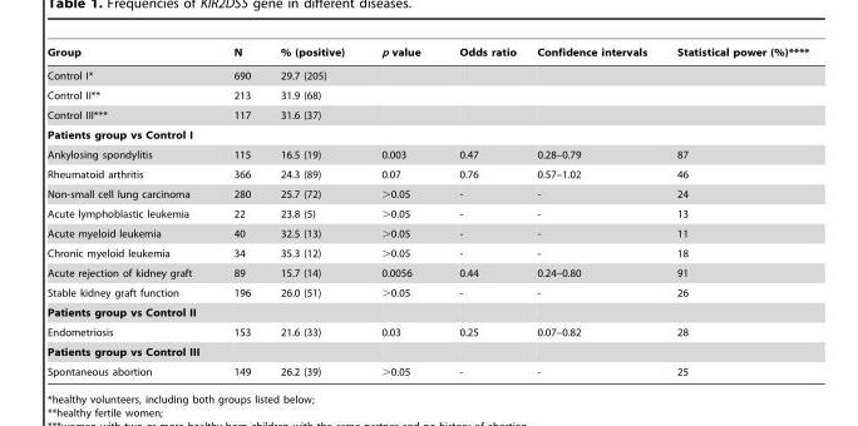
<table><thead><tr><td>Group</td><td>N</td><td>% (positive)</td><td>p value</td><td>Odds ratio</td><td>Confidence intervals</td><td>Statistical power (%)****</td></tr></thead><tbody><tr><td>Control I*</td><td>690</td><td>29.7 (205)</td><td></td><td></td><td></td><td></td></tr><tr><td>Control II**</td><td>213</td><td>31.9 (68)</td><td></td><td></td><td></td><td></td></tr><tr><td>Control III***</td><td>117</td><td>31.6 (37)</td><td></td><td></td><td></td><td></td></tr><tr><td colspan="7">Patients group vs Control I</td></tr><tr><td>Ankylosing spondylitis</td><td>115</td><td>16.5 (19)</td><td>0.003</td><td>0.47</td><td>0.28–0.79</td><td>87</td></tr><tr><td>Rheumatoid arthritis</td><td>366</td><td>24.3 (89)</td><td>0.07</td><td>0.76</td><td>0.57–1.02</td><td>46</td></tr><tr><td>Non-small cell lung carcinoma</td><td>280</td><td>25.7 (72)</td><td>&gt;0.05</td><td>-</td><td>-</td><td>24</td></tr><tr><td>Acute lymphoblastic leukemia</td><td>22</td><td>23.8 (5)</td><td>&gt;0.05</td><td>-</td><td>-</td><td>13</td></tr><tr><td>Acute myeloid leukemia</td><td>40</td><td>32.5 (13)</td><td>&gt;0.05</td><td>-</td><td>-</td><td>11</td></tr><tr><td>Chronic myeloid leukemia</td><td>34</td><td>35.3 (12)</td><td>&gt;0.05</td><td>-</td><td>-</td><td>18</td></tr><tr><td>Acute rejection of kidney graft</td><td>89</td><td>15.7 (14)</td><td>0.0056</td><td>0.44</td><td>0.24–0.80</td><td>91</td></tr><tr><td>Stable kidney graft function</td><td>196</td><td>26.0 (51)</td><td>&gt;0.05</td><td>-</td><td>-</td><td>26</td></tr><tr><td colspan="7">Patients group vs Control II</td></tr><tr><td>Endometriosis</td><td>153</td><td>21.6 (33)</td><td>0.03</td><td>0.25</td><td>0.07–0.82</td><td>28</td></tr><tr><td colspan="7">Patients group vs Control III</td></tr><tr><td>Spontaneous abortion</td><td>149</td><td>26.2 (39)</td><td>&gt;0.05</td><td>-</td><td>-</td><td>25</td></tr></tbody></table>